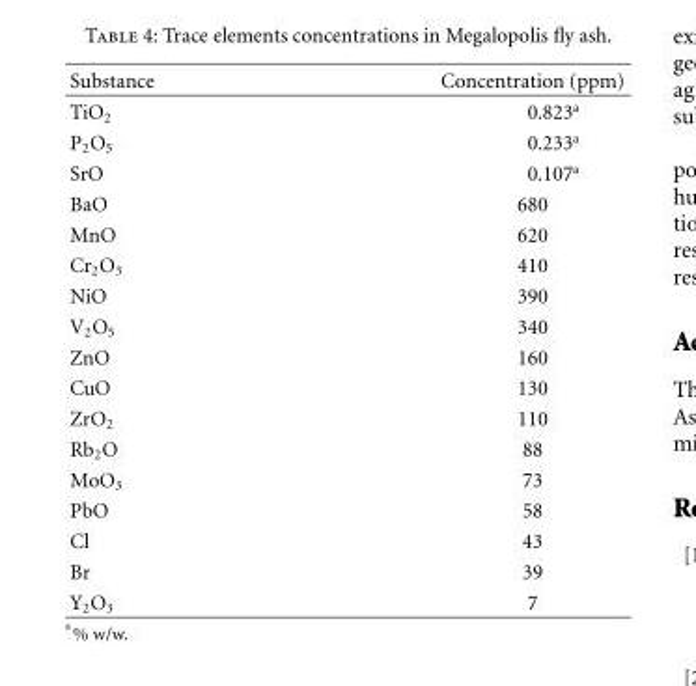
<table><thead><tr><td>Substance</td><td>Concentration (ppm)</td></tr></thead><tbody><tr><td>TiO<sub>2</sub></td><td>0.823<sup>a</sup></td></tr><tr><td>P<sub>2</sub>O<sub>5</sub></td><td>0.233<sup>a</sup></td></tr><tr><td>SrO</td><td>0.107<sup>a</sup></td></tr><tr><td>BaO</td><td>680</td></tr><tr><td>MnO</td><td>620</td></tr><tr><td>Cr<sub>2</sub>O<sub>3</sub></td><td>410</td></tr><tr><td>NiO</td><td>390</td></tr><tr><td>V<sub>2</sub>O<sub>5</sub></td><td>340</td></tr><tr><td>ZnO</td><td>160</td></tr><tr><td>CuO</td><td>130</td></tr><tr><td>ZrO<sub>2</sub></td><td>110</td></tr><tr><td>Rb<sub>2</sub>O</td><td>88</td></tr><tr><td>MoO<sub>3</sub></td><td>73</td></tr><tr><td>PbO</td><td>58</td></tr><tr><td>Cl</td><td>43</td></tr><tr><td>Br</td><td>39</td></tr><tr><td>Y<sub>2</sub>O<sub>3</sub></td><td>7</td></tr></tbody></table>